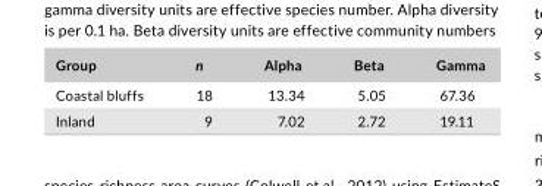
<table><thead><tr><td>Group</td><td>n</td><td>Alpha</td><td>Beta</td><td>Gamma</td></tr></thead><tbody><tr><td>Coastal bluffs</td><td>18</td><td>13.34</td><td>5.05</td><td>67.36</td></tr><tr><td>Inland</td><td>9</td><td>7.02</td><td>2.72</td><td>19.11</td></tr></tbody></table>